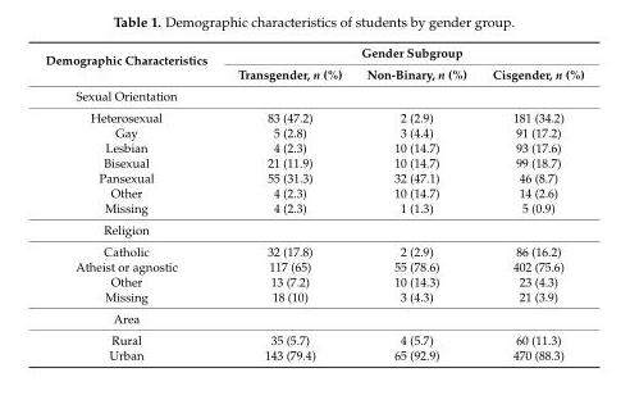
<table><thead><tr><td rowspan="2">Demographic Characteristics</td><td colspan="3">Gender Subgroup</td></tr><tr><td>Transgender, n (%)</td><td>Non-Binary, n (%)</td><td>Cisgender, n (%)</td></tr></thead><tbody><tr><td colspan="4">Sexual Orientation</td></tr><tr><td>Heterosexual</td><td>83 (47.2)</td><td>2 (2.9)</td><td>181 (34.2)</td></tr><tr><td>Gay</td><td>5 (2.8)</td><td>3 (4.4)</td><td>91 (17.2)</td></tr><tr><td>Lesbian</td><td>4 (2.3)</td><td>10 (14.7)</td><td>93 (17.6)</td></tr><tr><td>Bisexual</td><td>21 (11.9)</td><td>10 (14.7)</td><td>99 (18.7)</td></tr><tr><td>Pansexual</td><td>55 (31.3)</td><td>32 (47.1)</td><td>46 (8.7)</td></tr><tr><td>Other</td><td>4 (2.3)</td><td>10 (14.7)</td><td>14 (2.6)</td></tr><tr><td>Missing</td><td>4 (2.3)</td><td>1 (1.3)</td><td>5 (0.9)</td></tr><tr><td colspan="4">Religion</td></tr><tr><td>Catholic</td><td>32 (17.8)</td><td>2 (2.9)</td><td>86 (16.2)</td></tr><tr><td>Atheist or agnostic</td><td>117 (65)</td><td>55 (78.6)</td><td>402 (75.6)</td></tr><tr><td>Other</td><td>13 (7.2)</td><td>10 (14.3)</td><td>23 (4.3)</td></tr><tr><td>Missing</td><td>18 (10)</td><td>3 (4.3)</td><td>21 (3.9)</td></tr><tr><td colspan="4">Area</td></tr><tr><td>Rural</td><td>35 (5.7)</td><td>4 (5.7)</td><td>60 (11.3)</td></tr><tr><td>Urban</td><td>143 (79.4)</td><td>65 (92.9)</td><td>470 (88.3)</td></tr></tbody></table>